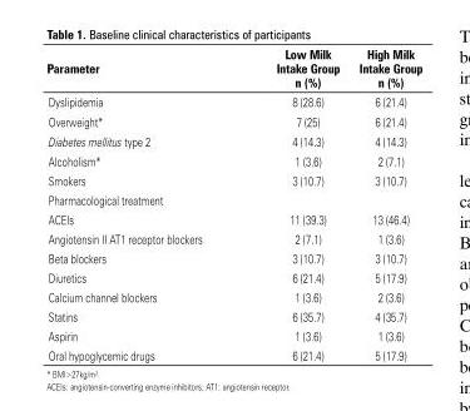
<table><thead><tr><td>Parameter</td><td>Low Milk Intake Group n (%)</td><td>High Milk Intake Group n (%)</td></tr></thead><tbody><tr><td>Dyslipidemia</td><td>8 (28.6)</td><td>6 (21.4)</td></tr><tr><td>Overweight*</td><td>7 (25)</td><td>6 (21.4)</td></tr><tr><td>Diabetes mellitus type 2</td><td>4 (14.3)</td><td>4 (14.3)</td></tr><tr><td>Alcoholism*</td><td>1 (3.6)</td><td>2 (7.1)</td></tr><tr><td>Smokers</td><td>3 (10.7)</td><td>3 (10.7)</td></tr><tr><td colspan="3">Pharmacological treatment</td></tr><tr><td>ACEIs</td><td>11 (39.3)</td><td>13 (46.4)</td></tr><tr><td>Angiotensin II AT1 receptor blockers</td><td>2 (7.1)</td><td>1 (3.6)</td></tr><tr><td>Beta blockers</td><td>3 (10.7)</td><td>3 (10.7)</td></tr><tr><td>Diuretics</td><td>6 (21.4)</td><td>5 (17.9)</td></tr><tr><td>Calcium channel blockers</td><td>1 (3.6)</td><td>2 (3.6)</td></tr><tr><td>Statins</td><td>6 (35.7)</td><td>4 (35.7)</td></tr><tr><td>Aspirin</td><td>1 (3.6)</td><td>1 (3.6)</td></tr><tr><td>Oral hypoglycemic drugs</td><td>6 (21.4)</td><td>5 (17.9)</td></tr></tbody></table>